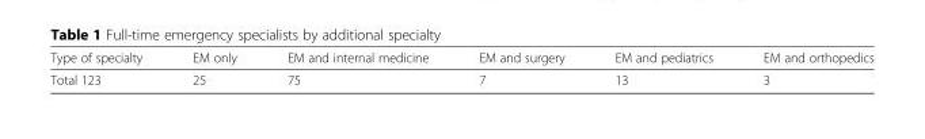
<table><thead><tr><td>Type of specialty</td><td>EM only</td><td>EM and internal medicine</td><td>EM and surgery</td><td>EM and pediatrics</td><td>EM and orthopedics</td></tr></thead><tbody><tr><td>Total 123</td><td>25</td><td>75</td><td>7</td><td>13</td><td>3</td></tr></tbody></table>